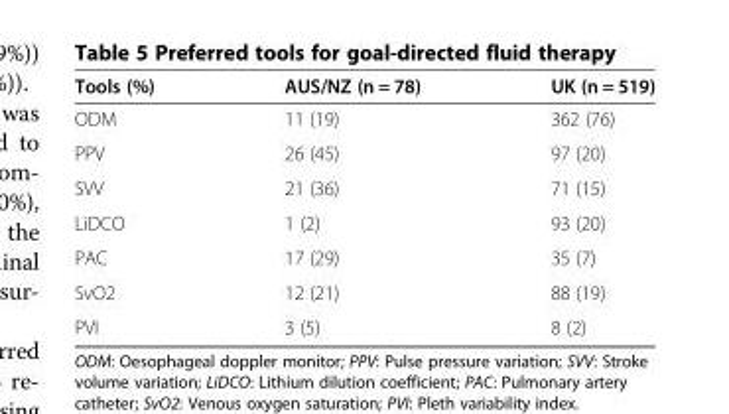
<table><thead><tr><td>Tools (%)</td><td>AUS/NZ (n = 78)</td><td>UK (n = 519)</td></tr></thead><tbody><tr><td>ODM</td><td>11 (19)</td><td>362 (76)</td></tr><tr><td>PPV</td><td>26 (45)</td><td>97 (20)</td></tr><tr><td>SVV</td><td>21 (36)</td><td>71 (15)</td></tr><tr><td>LiDCO</td><td>1 (2)</td><td>93 (20)</td></tr><tr><td>PAC</td><td>17 (29)</td><td>35 (7)</td></tr><tr><td>SvO2</td><td>12 (21)</td><td>88 (19)</td></tr><tr><td>PVI</td><td>3 (5)</td><td>8 (2)</td></tr></tbody></table>